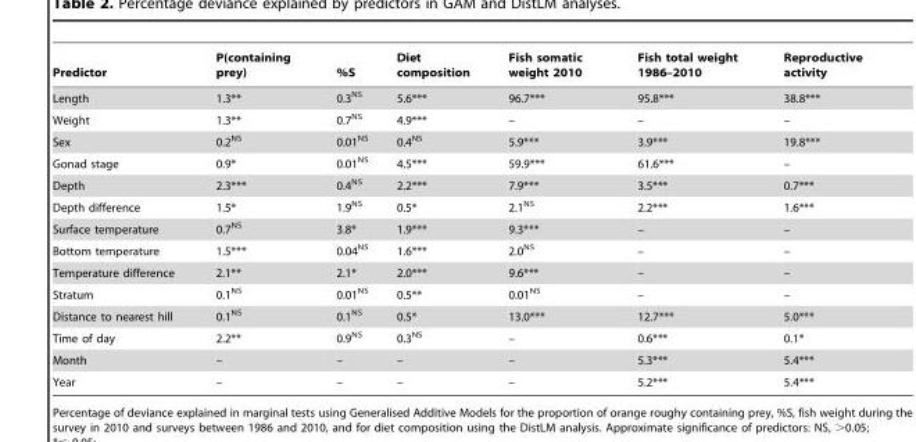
<table><thead><tr><td>Predictor</td><td>P(containing prey)</td><td>%S</td><td>Diet composition</td><td>Fish somatic weight 2010</td><td>Fish total weight 1986–2010</td><td>Reproductive activity</td></tr></thead><tbody><tr><td>Length</td><td>1.3**</td><td>0.3<sup>NS</sup></td><td>5.6***</td><td>96.7***</td><td>95.8***</td><td>38.8***</td></tr><tr><td>Weight</td><td>1.3**</td><td>0.7<sup>NS</sup></td><td>4.9***</td><td>–</td><td>–</td><td>–</td></tr><tr><td>Sex</td><td>0.2<sup>NS</sup></td><td>0.01<sup>NS</sup></td><td>0.4<sup>NS</sup></td><td>5.9***</td><td>3.9***</td><td>19.8***</td></tr><tr><td>Gonad stage</td><td>0.9*</td><td>0.01<sup>NS</sup></td><td>4.5***</td><td>59.9***</td><td>61.6***</td><td>–</td></tr><tr><td>Depth</td><td>2.3***</td><td>0.4<sup>NS</sup></td><td>2.2***</td><td>7.9***</td><td>3.5***</td><td>0.7***</td></tr><tr><td>Depth difference</td><td>1.5*</td><td>1.9<sup>NS</sup></td><td>0.5*</td><td>2.1<sup>NS</sup></td><td>2.2***</td><td>1.6***</td></tr><tr><td>Surface temperature</td><td>0.7<sup>NS</sup></td><td>3.8*</td><td>1.9***</td><td>9.3***</td><td>–</td><td>–</td></tr><tr><td>Bottom temperature</td><td>1.5***</td><td>0.04<sup>NS</sup></td><td>1.6***</td><td>2.0<sup>NS</sup></td><td>–</td><td>–</td></tr><tr><td>Temperature difference</td><td>2.1**</td><td>2.1*</td><td>2.0***</td><td>9.6***</td><td>–</td><td>–</td></tr><tr><td>Stratum</td><td>0.1<sup>NS</sup></td><td>0.01<sup>NS</sup></td><td>0.5**</td><td>0.01<sup>NS</sup></td><td>–</td><td>–</td></tr><tr><td>Distance to nearest hill</td><td>0.1<sup>NS</sup></td><td>0.1<sup>NS</sup></td><td>0.5*</td><td>13.0***</td><td>12.7***</td><td>5.0***</td></tr><tr><td>Time of day</td><td>2.2**</td><td>0.9<sup>NS</sup></td><td>0.3<sup>NS</sup></td><td>–</td><td>0.6***</td><td>0.1*</td></tr><tr><td>Month</td><td>–</td><td>–</td><td>–</td><td>–</td><td>5.3***</td><td>5.4***</td></tr><tr><td>Year</td><td>–</td><td>–</td><td>–</td><td>–</td><td>5.2***</td><td>5.4***</td></tr></tbody></table>